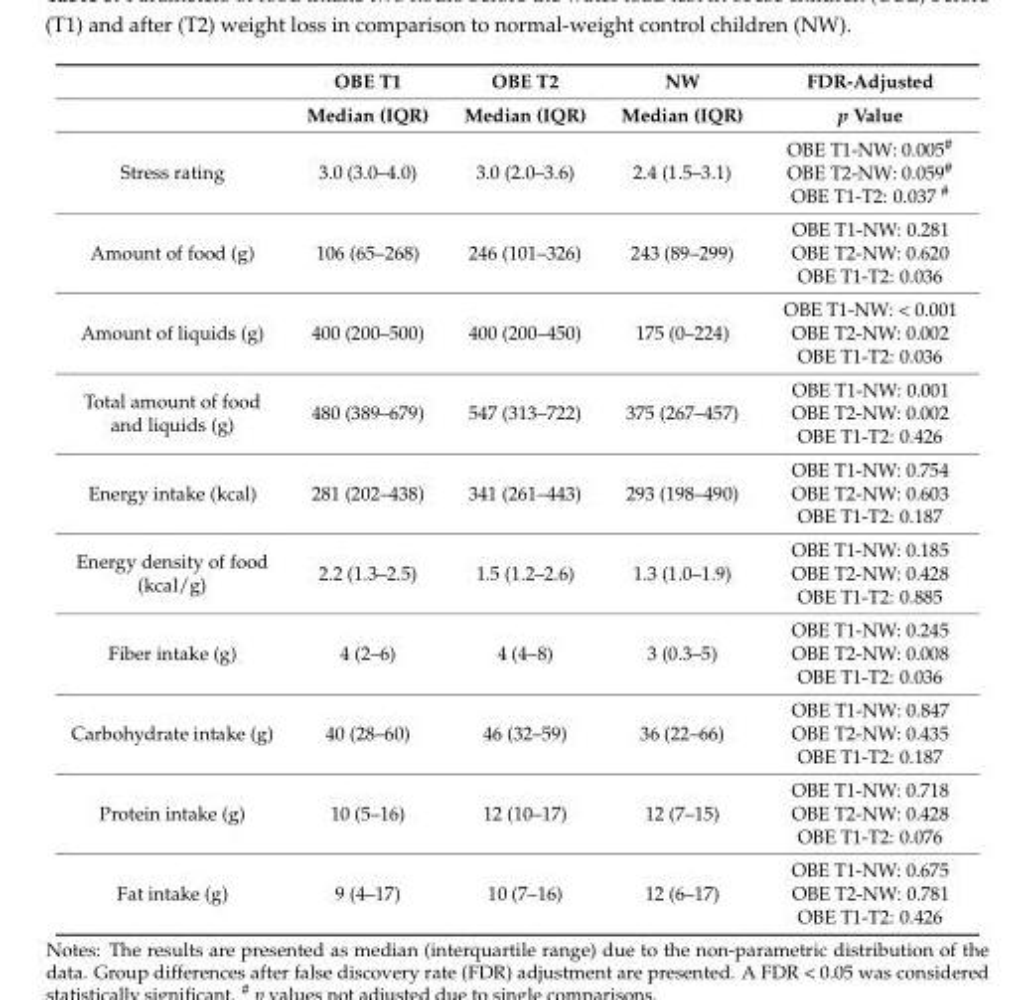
<table><thead><tr><td rowspan="2"></td><td rowspan="2">OBE T1 Median (IQR)</td><td rowspan="2">OBE T2 Median (IQR)</td><td rowspan="2">NW Median (IQR)</td><td rowspan="2">FDR-Adjusted p Value</td></tr><tr></tr></thead><tbody><tr><td>Stress rating</td><td>3.0 (3.0–4.0)</td><td>3.0 (2.0–3.6)</td><td>2.4 (1.5–3.1)</td><td>OBE T1-NW: 0.005<sup>#</sup> OBE T2-NW: 0.059<sup>#</sup> OBE T1-T2: 0.037 <sup>#</sup></td></tr><tr><td>Amount of food (g)</td><td>106 (65–268)</td><td>246 (101–326)</td><td>243 (89–299)</td><td>OBE T1-NW: 0.281 OBE T2-NW: 0.620 OBE T1-T2: 0.036</td></tr><tr><td>Amount of liquids (g)</td><td>400 (200–500)</td><td>400 (200–450)</td><td>175 (0–224)</td><td>OBE T1-NW: &lt; 0.001 OBE T2-NW: 0.002 OBE T1-T2: 0.036</td></tr><tr><td>Total amount of food and liquids (g)</td><td>480 (389–679)</td><td>547 (313–722)</td><td>375 (267–457)</td><td>OBE T1-NW: 0.001 OBE T2-NW: 0.002 OBE T1-T2: 0.426</td></tr><tr><td>Energy intake (kcal)</td><td>281 (202–438)</td><td>341 (261–443)</td><td>293 (198–490)</td><td>OBE T1-NW: 0.754 OBE T2-NW: 0.603 OBE T1-T2: 0.187</td></tr><tr><td>Energy density of food (kcal/g)</td><td>2.2 (1.3–2.5)</td><td>1.5 (1.2–2.6)</td><td>1.3 (1.0–1.9)</td><td>OBE T1-NW: 0.185 OBE T2-NW: 0.428 OBE T1-T2: 0.885</td></tr><tr><td>Fiber intake (g)</td><td>4 (2–6)</td><td>4 (4–8)</td><td>3 (0.3–5)</td><td>OBE T1-NW: 0.245 OBE T2-NW: 0.008 OBE T1-T2: 0.036</td></tr><tr><td>Carbohydrate intake (g)</td><td>40 (28–60)</td><td>46 (32–59)</td><td>36 (22–66)</td><td>OBE T1-NW: 0.847 OBE T2-NW: 0.435 OBE T1-T2: 0.187</td></tr><tr><td>Protein intake (g)</td><td>10 (5–16)</td><td>12 (10–17)</td><td>12 (7–15)</td><td>OBE T1-NW: 0.718 OBE T2-NW: 0.428 OBE T1-T2: 0.076</td></tr><tr><td>Fat intake (g)</td><td>9 (4–17)</td><td>10 (7–16)</td><td>12 (6–17)</td><td>OBE T1-NW: 0.675 OBE T2-NW: 0.781 OBE T1-T2: 0.426</td></tr></tbody></table>